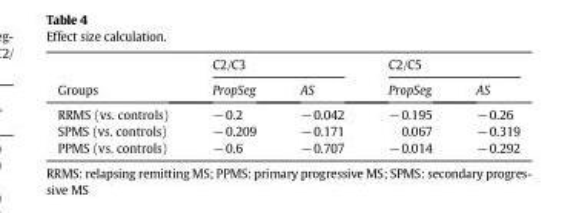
<table><thead><tr><td rowspan="2">Groups</td><td colspan="2">C2/C3</td><td colspan="2">C2/C5</td></tr><tr><td>PropSeg</td><td>AS</td><td>PropSeg</td><td>AS</td></tr></thead><tbody><tr><td>RRMS (vs. controls)</td><td>−0.2</td><td>−0.042</td><td>−0.195</td><td>−0.26</td></tr><tr><td>SPMS (vs. controls)</td><td>−0.209</td><td>−0.171</td><td>0.067</td><td>−0.319</td></tr><tr><td>PPMS (vs. controls)</td><td>−0.6</td><td>−0.707</td><td>−0.014</td><td>−0.292</td></tr></tbody></table>